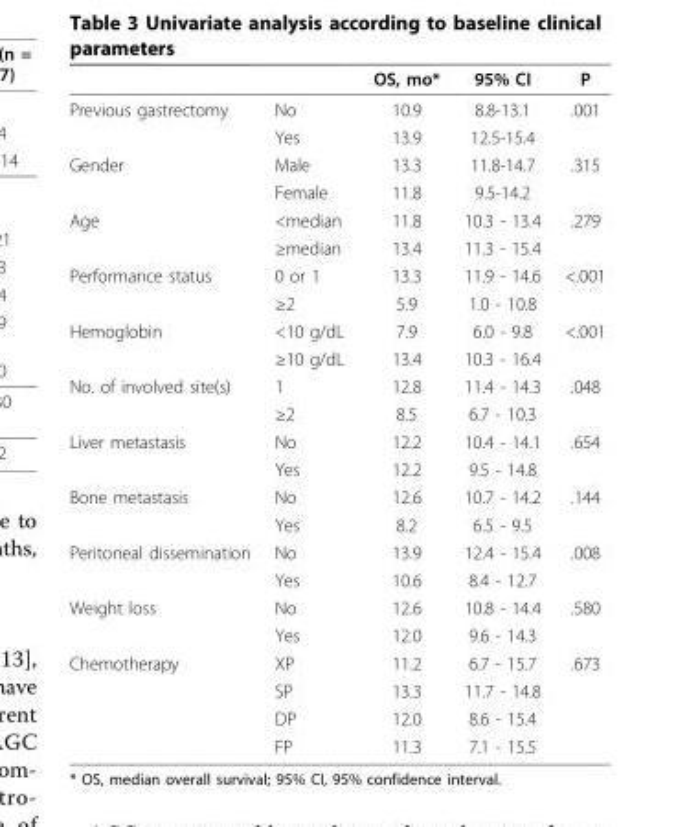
<table><thead><tr><td></td><td></td><td>OS, mo*</td><td>95% CI</td><td>P</td></tr></thead><tbody><tr><td rowspan="2">Previous gastrectomy</td><td>No</td><td>10.9</td><td>8.8-13.1</td><td>.001</td></tr><tr><td>Yes</td><td>13.9</td><td>12.5-15.4</td><td></td></tr><tr><td rowspan="2">Gender</td><td>Male</td><td>13.3</td><td>11.8-14.7</td><td>.315</td></tr><tr><td>Female</td><td>11.8</td><td>9.5-14.2</td><td></td></tr><tr><td rowspan="2">Age</td><td>&lt;median</td><td>11.8</td><td>10.3 - 13.4</td><td>.279</td></tr><tr><td>≥median</td><td>13.4</td><td>11.3 - 15.4</td><td></td></tr><tr><td rowspan="2">Performance status</td><td>0 or 1</td><td>13.3</td><td>11.9 - 14.6</td><td>&lt;.001</td></tr><tr><td>≥2</td><td>5.9</td><td>1.0 - 10.8</td><td></td></tr><tr><td rowspan="2">Hemoglobin</td><td>&lt;10 g/dL</td><td>7.9</td><td>6.0 - 9.8</td><td>&lt;.001</td></tr><tr><td>≥10 g/dL</td><td>13.4</td><td>10.3 - 16.4</td><td></td></tr><tr><td rowspan="2">No. of involved site(s)</td><td>1</td><td>12.8</td><td>11.4 - 14.3</td><td>.048</td></tr><tr><td>≥2</td><td>8.5</td><td>6.7 - 10.3</td><td></td></tr><tr><td rowspan="2">Liver metastasis</td><td>No</td><td>12.2</td><td>10.4 - 14.1</td><td>.654</td></tr><tr><td>Yes</td><td>12.2</td><td>9.5 - 14.8</td><td></td></tr><tr><td rowspan="2">Bone metastasis</td><td>No</td><td>12.6</td><td>10.7 - 14.2</td><td>.144</td></tr><tr><td>Yes</td><td>8.2</td><td>6.5 - 9.5</td><td></td></tr><tr><td rowspan="2">Peritoneal dissemination</td><td>No</td><td>13.9</td><td>12.4 - 15.4</td><td>.008</td></tr><tr><td>Yes</td><td>10.6</td><td>8.4 - 12.7</td><td></td></tr><tr><td rowspan="2">Weight loss</td><td>No</td><td>12.6</td><td>10.8 - 14.4</td><td>.580</td></tr><tr><td>Yes</td><td>12.0</td><td>9.6 - 14.3</td><td></td></tr><tr><td rowspan="4">Chemotherapy</td><td>XP</td><td>11.2</td><td>6.7 - 15.7</td><td>.673</td></tr><tr><td>SP</td><td>13.3</td><td>11.7 - 14.8</td><td></td></tr><tr><td>DP</td><td>12.0</td><td>8.6 - 15.4</td><td></td></tr><tr><td>FP</td><td>11.3</td><td>7.1 - 15.5</td><td></td></tr></tbody></table>